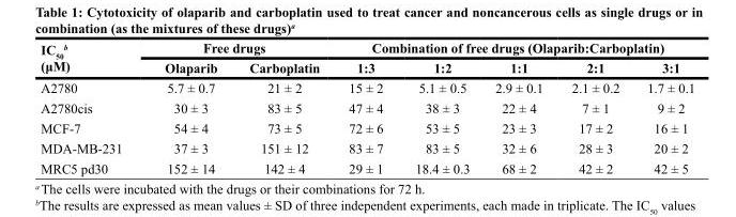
<table><thead><tr><td rowspan="2">IC<sub>50</sub> <sup>b</sup> (μM)</td><td colspan="2">Free drugs</td><td colspan="5">Combination of free drugs (Olaparib:Carboplatin)</td></tr><tr><td>Olaparib</td><td>Carboplatin</td><td>1:3</td><td>1:2</td><td>1:1</td><td>2:1</td><td>3:1</td></tr></thead><tbody><tr><td>A2780</td><td>5.7 ± 0.7</td><td>21 ± 2</td><td>15 ± 2</td><td>5.1 ± 0.5</td><td>2.9 ± 0.1</td><td>2.1 ± 0.2</td><td>1.7 ± 0.1</td></tr><tr><td>A2780cis</td><td>30 ± 3</td><td>83 ± 5</td><td>47 ± 4</td><td>38 ± 3</td><td>22 ± 4</td><td>7 ± 1</td><td>9 ± 2</td></tr><tr><td>MCF-7</td><td>54 ± 4</td><td>73 ± 5</td><td>72 ± 6</td><td>53 ± 5</td><td>23 ± 3</td><td>17 ± 2</td><td>16 ± 1</td></tr><tr><td>MDA-MB-231</td><td>37 ± 3</td><td>151 ± 12</td><td>83 ± 7</td><td>83 ± 5</td><td>32 ± 6</td><td>28 ± 3</td><td>20 ± 2</td></tr><tr><td>MRC5 pd30</td><td>152 ± 14</td><td>142 ± 4</td><td>29 ± 1</td><td>18.4 ± 0.3</td><td>68 ± 2</td><td>42 ± 2</td><td>42 ± 5</td></tr></tbody></table>